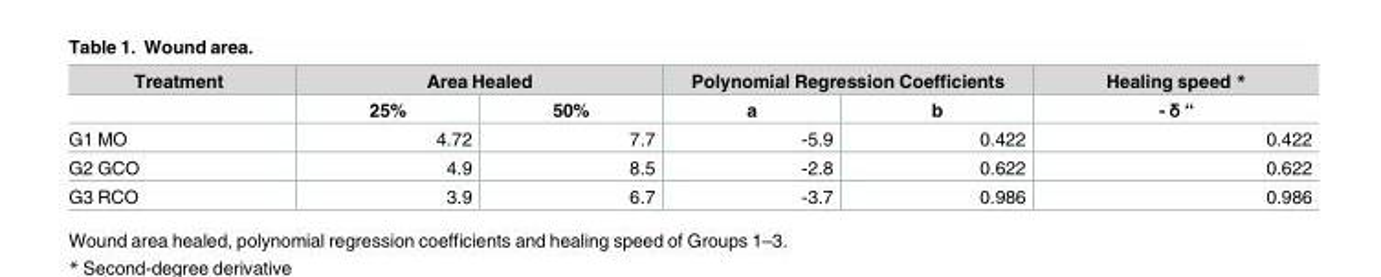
<table><thead><tr><td rowspan="2">Treatment</td><td colspan="2">Area Healed</td><td colspan="2">Polynomial Regression Coefficients</td><td rowspan="2">Healing speed * - δ “</td></tr><tr><td>25%</td><td>50%</td><td>a</td><td>b</td></tr></thead><tbody><tr><td>G1 MO</td><td>4.72</td><td>7.7</td><td>-5.9</td><td>0.422</td><td>0.422</td></tr><tr><td>G2 GCO</td><td>4.9</td><td>8.5</td><td>-2.8</td><td>0.622</td><td>0.622</td></tr><tr><td>G3 RCO</td><td>3.9</td><td>6.7</td><td>-3.7</td><td>0.986</td><td>0.986</td></tr></tbody></table>